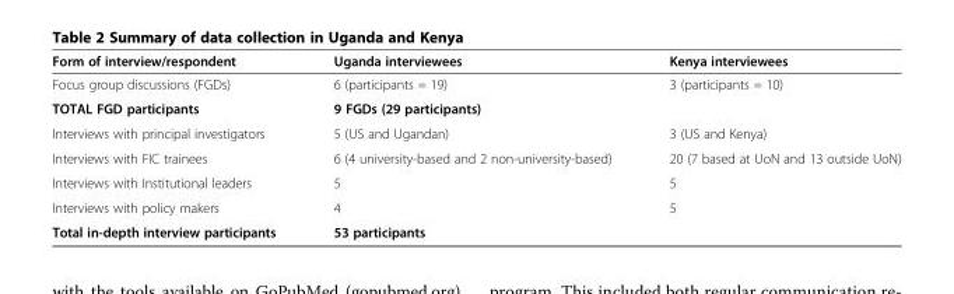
<table><thead><tr><td>Form of interview/respondent</td><td>Uganda interviewees</td><td>Kenya interviewees</td></tr></thead><tbody><tr><td>Focus group discussions (FGDs)</td><td>6 (participants = 19)</td><td>3 (participants = 10)</td></tr><tr><td>TOTAL FGD participants</td><td colspan="2">9 FGDs (29 participants)</td></tr><tr><td>Interviews with principal investigators</td><td>5 (US and Ugandan)</td><td>3 (US and Kenya)</td></tr><tr><td>Interviews with FIC trainees</td><td>6 (4 university-based and 2 non-university-based)</td><td>20 (7 based at UoN and 13 outside UoN)</td></tr><tr><td>Interviews with Institutional leaders</td><td>5</td><td>5</td></tr><tr><td>Interviews with policy makers</td><td>4</td><td>5</td></tr><tr><td>Total in-depth interview participants</td><td colspan="2">53 participants</td></tr></tbody></table>